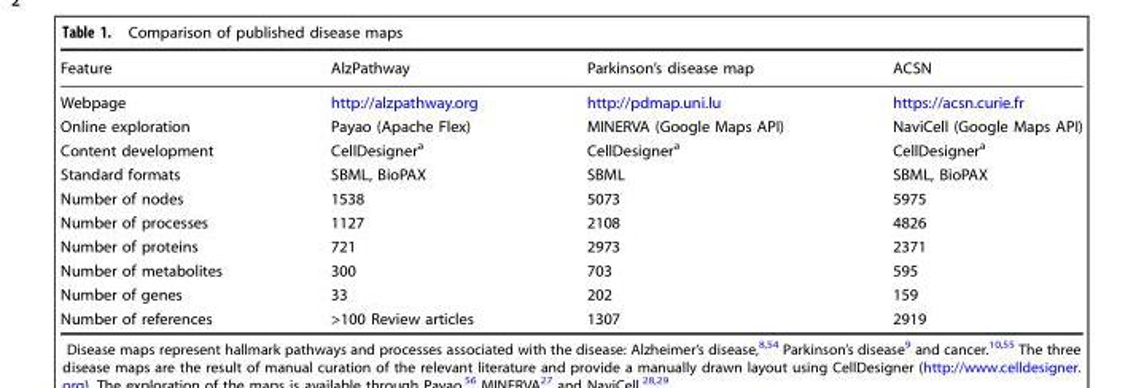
<table><thead><tr><td>Feature</td><td>AlzPathway</td><td>Parkinson’s disease map</td><td>ACSN</td></tr></thead><tbody><tr><td>Webpage</td><td>http://alzpathway.org</td><td>http://pdmap.uni.lu</td><td>https://acsn.curie.fr</td></tr><tr><td>Online exploration</td><td>Payao (Apache Flex)</td><td>MINERVA (Google Maps API)</td><td>NaviCell (Google Maps API)</td></tr><tr><td>Content development</td><td>CellDesigner<sup>a</sup></td><td>CellDesigner<sup>a</sup></td><td>CellDesigner<sup>a</sup></td></tr><tr><td>Standard formats</td><td>SBML, BioPAX</td><td>SBML</td><td>SBML, BioPAX</td></tr><tr><td>Number of nodes</td><td>1538</td><td>5073</td><td>5975</td></tr><tr><td>Number of processes</td><td>1127</td><td>2108</td><td>4826</td></tr><tr><td>Number of proteins</td><td>721</td><td>2973</td><td>2371</td></tr><tr><td>Number of metabolites</td><td>300</td><td>703</td><td>595</td></tr><tr><td>Number of genes</td><td>33</td><td>202</td><td>159</td></tr><tr><td>Number of references</td><td>&gt;100 Review articles</td><td>1307</td><td>2919</td></tr></tbody></table>